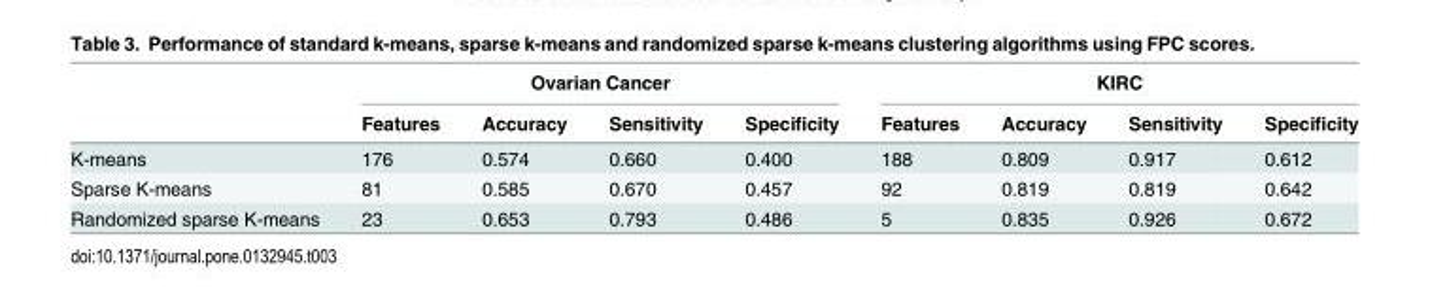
<table><thead><tr><td rowspan="2"></td><td colspan="4">Ovarian Cancer</td><td colspan="4">KIRC</td></tr><tr><td>Features</td><td>Accuracy</td><td>Sensitivity</td><td>Specificity</td><td>Features</td><td>Accuracy</td><td>Sensitivity</td><td>Specificity</td></tr></thead><tbody><tr><td>K-means</td><td>176</td><td>0.574</td><td>0.660</td><td>0.400</td><td>188</td><td>0.809</td><td>0.917</td><td>0.612</td></tr><tr><td>Sparse K-means</td><td>81</td><td>0.585</td><td>0.670</td><td>0.457</td><td>92</td><td>0.819</td><td>0.819</td><td>0.642</td></tr><tr><td>Randomized sparse K-means</td><td>23</td><td>0.653</td><td>0.793</td><td>0.486</td><td>5</td><td>0.835</td><td>0.926</td><td>0.672</td></tr></tbody></table>